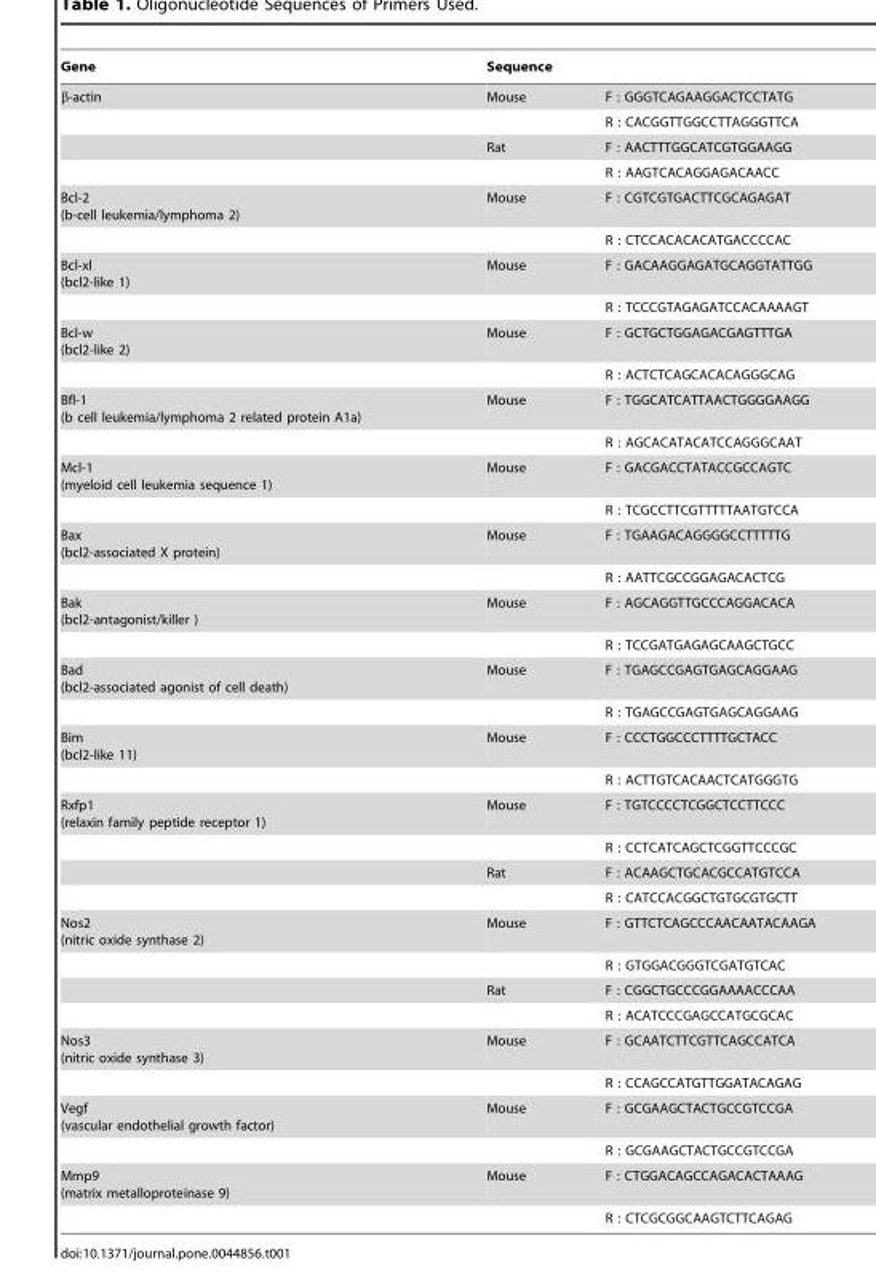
<table><thead><tr><td rowspan="2">Gene β-actin</td><td colspan="2">Sequence</td></tr><tr><td>Mouse</td><td>F : GGGTCAGAAGGACTCCTATG</td></tr></thead><tbody><tr><td></td><td></td><td>R : CACGGTTGGCCTTAGGGTTCA</td></tr><tr><td></td><td>Rat</td><td>F : AACTTTGGCATCGTGGAAGG</td></tr><tr><td></td><td></td><td>R : AAGTCACAGGAGACAACC</td></tr><tr><td rowspan="2">Bcl-2 (b-cell leukemia/lymphoma 2)</td><td>Mouse</td><td>F : CGTCGTGACTTCGCAGAGAT</td></tr><tr><td></td><td>R : CTCCACACACATGACCCCAC</td></tr><tr><td rowspan="2">Bcl-xl (bcl2-like 1)</td><td>Mouse</td><td>F : GACAAGGAGATGCAGGTATTGG</td></tr><tr><td></td><td>R : TCCCGTAGAGATCCACAAAAGT</td></tr><tr><td rowspan="2">Bcl-w (bcl2-like 2)</td><td>Mouse</td><td>F : GCTGCTGGAGACGAGTTTGA</td></tr><tr><td></td><td>R : ACTCTCAGCACACAGGGCAG</td></tr><tr><td rowspan="2">Bfl-1 (b cell leukemia/lymphoma 2 related protein A1a)</td><td>Mouse</td><td>F : TGGCATCATTAACTGGGGAAGG</td></tr><tr><td></td><td>R : AGCACATACATCCAGGGCAAT</td></tr><tr><td rowspan="2">Mcl-1 (myeloid cell leukemia sequence 1)</td><td>Mouse</td><td>F : GACGACCTATACCGCCAGTC</td></tr><tr><td></td><td>R : TCGCCTTCGTTTTTAATGTCCA</td></tr><tr><td rowspan="2">Bax (bcl2-associated X protein)</td><td>Mouse</td><td>F : TGAAGACAGGGGCCTTTTTG</td></tr><tr><td></td><td>R : AATTCGCCGGAGACACTCG</td></tr><tr><td rowspan="2">Bak (bcl2-antagonist/killer )</td><td>Mouse</td><td>F : AGCAGGTTGCCCAGGACACA</td></tr><tr><td></td><td>R : TCCGATGAGAGCAAGCTGCC</td></tr><tr><td rowspan="2">Bad (bcl2-associated agonist of cell death)</td><td>Mouse</td><td>F : TGAGCCGAGTGAGCAGGAAG</td></tr><tr><td></td><td>R : TGAGCCGAGTGAGCAGGAAG</td></tr><tr><td rowspan="2">Bim (bcl2-like 11)</td><td>Mouse</td><td>F : CCCTGGCCCTTTTGCTACC</td></tr><tr><td></td><td>R : ACTTGTCACAACTCATGGGTG</td></tr><tr><td rowspan="4">Rxfp1 (relaxin family peptide receptor 1)</td><td>Mouse</td><td>F : TGTCCCCTCGGCTCCTTCCC</td></tr><tr><td></td><td>R : CCTCATCAGCTCGGTTCCCGC</td></tr><tr><td>Rat</td><td>F : ACAAGCTGCACGCCATGTCCA</td></tr><tr><td></td><td>R : CATCCACGGCTGTGCGTGCTT</td></tr><tr><td rowspan="4">Nos2 (nitric oxide synthase 2)</td><td>Mouse</td><td>F : GTTCTCAGCCCAACAATACAAGA</td></tr><tr><td></td><td>R : GTGGACGGGTCGATGTCAC</td></tr><tr><td>Rat</td><td>F : CGGCTGCCCGGAAAACCCAA</td></tr><tr><td></td><td>R : ACATCCCGAGCCATGCGCAC</td></tr><tr><td rowspan="2">Nos3 (nitric oxide synthase 3)</td><td>Mouse</td><td>F : GCAATCTTCGTTCAGCCATCA</td></tr><tr><td></td><td>R : CCAGCCATGTTGGATACAGAG</td></tr><tr><td rowspan="2">Vegf (vascular endothelial growth factor)</td><td>Mouse</td><td>F : GCGAAGCTACTGCCGTCCGA</td></tr><tr><td></td><td>R : GCGAAGCTACTGCCGTCCGA</td></tr><tr><td rowspan="2">Mmp9 (matrix metalloproteinase 9)</td><td>Mouse</td><td>F : CTGGACAGCCAGACACTAAAG</td></tr><tr><td></td><td>R : CTCGCGGCAAGTCTTCAGAG</td></tr></tbody></table>